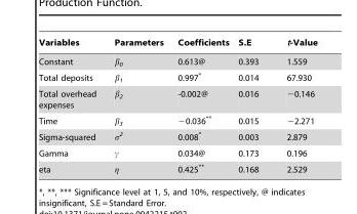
<table><thead><tr><td>Variables</td><td>Parameters</td><td>Coefficients</td><td>S.E</td><td>t-Value</td></tr></thead><tbody><tr><td>Constant</td><td>β<sub>0</sub></td><td>0.613@</td><td>0.393</td><td>1.559</td></tr><tr><td>Total deposits</td><td>β<sub>1</sub></td><td>0.997*</td><td>0.014</td><td>67.930</td></tr><tr><td>Total overhead expenses</td><td>β<sub>2</sub></td><td>-0.002@</td><td>0.016</td><td>−0.146</td></tr><tr><td>Time</td><td>β<sub>3</sub></td><td>−0.036**</td><td>0.015</td><td>−2.271</td></tr><tr><td>Sigma-squared</td><td>σ<sup>2</sup></td><td>0.008*</td><td>0.003</td><td>2.879</td></tr><tr><td>Gamma</td><td>γ</td><td>0.034@</td><td>0.173</td><td>0.196</td></tr><tr><td>eta</td><td>η</td><td>0.425**</td><td>0.168</td><td>2.529</td></tr></tbody></table>